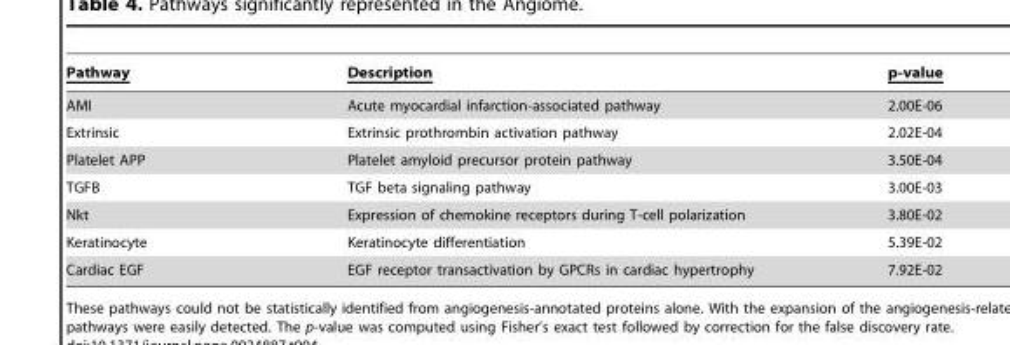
<table><thead><tr><td>Pathway</td><td>Description</td><td>p-value</td></tr></thead><tbody><tr><td>AMI</td><td>Acute myocardial infarction-associated pathway</td><td>2.00E-06</td></tr><tr><td>Extrinsic</td><td>Extrinsic prothrombin activation pathway</td><td>2.02E-04</td></tr><tr><td>Platelet APP</td><td>Platelet amyloid precursor protein pathway</td><td>3.50E-04</td></tr><tr><td>TGFB</td><td>TGF beta signaling pathway</td><td>3.00E-03</td></tr><tr><td>Nkt</td><td>Expression of chemokine receptors during T-cell polarization</td><td>3.80E-02</td></tr><tr><td>Keratinocyte</td><td>Keratinocyte differentiation</td><td>5.39E-02</td></tr><tr><td>Cardiac EGF</td><td>EGF receptor transactivation by GPCRs in cardiac hypertrophy</td><td>7.92E-02</td></tr></tbody></table>